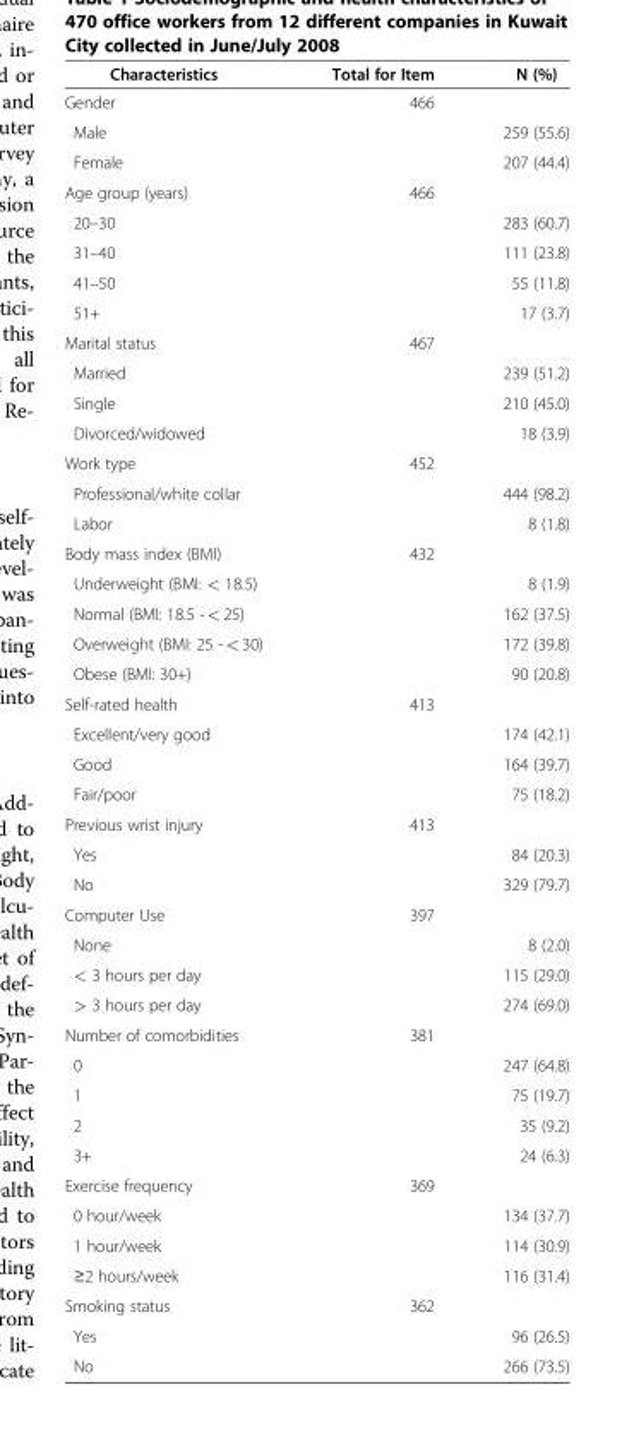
<table><thead><tr><td>Characteristics</td><td>Total for Item</td><td>N (%)</td></tr></thead><tbody><tr><td>Gender</td><td>466</td><td></td></tr><tr><td>Male</td><td></td><td>259 (55.6)</td></tr><tr><td>Female</td><td></td><td>207 (44.4)</td></tr><tr><td>Age group (years)</td><td>466</td><td></td></tr><tr><td>20–30</td><td></td><td>283 (60.7)</td></tr><tr><td>31–40</td><td></td><td>111 (23.8)</td></tr><tr><td>41–50</td><td></td><td>55 (11.8)</td></tr><tr><td>51+</td><td></td><td>17 (3.7)</td></tr><tr><td>Marital status</td><td>467</td><td></td></tr><tr><td>Married</td><td></td><td>239 (51.2)</td></tr><tr><td>Single</td><td></td><td>210 (45.0)</td></tr><tr><td>Divorced/widowed</td><td></td><td>18 (3.9)</td></tr><tr><td>Work type</td><td>452</td><td></td></tr><tr><td>Professional/white collar</td><td></td><td>444 (98.2)</td></tr><tr><td>Labor</td><td></td><td>8 (1.8)</td></tr><tr><td>Body mass index (BMI)</td><td>432</td><td></td></tr><tr><td>Underweight (BMI: &lt; 18.5)</td><td></td><td>8 (1.9)</td></tr><tr><td>Normal (BMI: 18.5 - &lt; 25)</td><td></td><td>162 (37.5)</td></tr><tr><td>Overweight (BMI: 25 - &lt; 30)</td><td></td><td>172 (39.8)</td></tr><tr><td>Obese (BMI: 30+)</td><td></td><td>90 (20.8)</td></tr><tr><td>Self-rated health</td><td>413</td><td></td></tr><tr><td>Excellent/very good</td><td></td><td>174 (42.1)</td></tr><tr><td>Good</td><td></td><td>164 (39.7)</td></tr><tr><td>Fair/poor</td><td></td><td>75 (18.2)</td></tr><tr><td>Previous wrist injury</td><td>413</td><td></td></tr><tr><td>Yes</td><td></td><td>84 (20.3)</td></tr><tr><td>No</td><td></td><td>329 (79.7)</td></tr><tr><td>Computer Use</td><td>397</td><td></td></tr><tr><td>None</td><td></td><td>8 (2.0)</td></tr><tr><td>&lt; 3 hours per day</td><td></td><td>115 (29.0)</td></tr><tr><td>&gt; 3 hours per day</td><td></td><td>274 (69.0)</td></tr><tr><td>Number of comorbidities</td><td>381</td><td></td></tr><tr><td>0</td><td></td><td>247 (64.8)</td></tr><tr><td>1</td><td></td><td>75 (19.7)</td></tr><tr><td>2</td><td></td><td>35 (9.2)</td></tr><tr><td>3+</td><td></td><td>24 (6.3)</td></tr><tr><td>Exercise frequency</td><td>369</td><td></td></tr><tr><td>0 hour/week</td><td></td><td>134 (37.7)</td></tr><tr><td>1 hour/week</td><td></td><td>114 (30.9)</td></tr><tr><td>≥2 hours/week</td><td></td><td>116 (31.4)</td></tr><tr><td>Smoking status</td><td>362</td><td></td></tr><tr><td>Yes</td><td></td><td>96 (26.5)</td></tr><tr><td>No</td><td></td><td>266 (73.5)</td></tr></tbody></table>